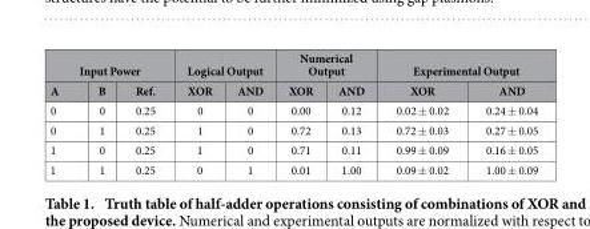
<table><thead><tr><td colspan="3">Input Power</td><td colspan="2">Logical Output</td><td colspan="2">Numerical Output</td><td colspan="2">Experimental Output</td></tr><tr><td>A</td><td>B</td><td>Ref.</td><td>XOR</td><td>AND</td><td>XOR</td><td>AND</td><td>XOR</td><td>AND</td></tr></thead><tbody><tr><td>0</td><td>0</td><td>0.25</td><td>0</td><td>0</td><td>0.00</td><td>0.12</td><td>0.02 ± 0.02</td><td>0.24 ± 0.04</td></tr><tr><td>0</td><td>1</td><td>0.25</td><td>1</td><td>0</td><td>0.72</td><td>0.13</td><td>0.72 ± 0.03</td><td>0.27 ± 0.05</td></tr><tr><td>1</td><td>0</td><td>0.25</td><td>1</td><td>0</td><td>0.71</td><td>0.11</td><td>0.99 ± 0.09</td><td>0.16 ± 0.05</td></tr><tr><td>1</td><td>1</td><td>0.25</td><td>0</td><td>1</td><td>0.01</td><td>1.00</td><td>0.09 ± 0.02</td><td>1.00 ± 0.09</td></tr></tbody></table>